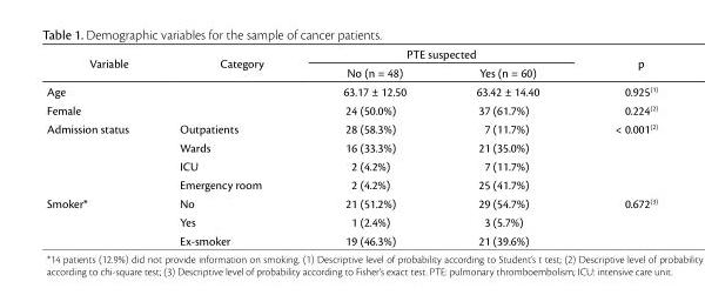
<table><thead><tr><td rowspan="2">Variable</td><td rowspan="2">Category</td><td colspan="2">PTE suspected</td><td rowspan="2">p</td></tr><tr><td>No (n = 48)</td><td>Yes (n = 60)</td></tr></thead><tbody><tr><td>Age</td><td></td><td>63.17 ± 12.50</td><td>63.42 ± 14.40</td><td>0.925(1)</td></tr><tr><td>Female</td><td></td><td>24 (50.0%)</td><td>37 (61.7%)</td><td>0.224(2)</td></tr><tr><td rowspan="4">Admission status</td><td>Outpatients</td><td>28 (58.3%)</td><td>7 (11.7%)</td><td>&lt; 0.001(2)</td></tr><tr><td>Wards</td><td>16 (33.3%)</td><td>21 (35.0%)</td><td></td></tr><tr><td>ICU</td><td>2 (4.2%)</td><td>7 (11.7%)</td><td></td></tr><tr><td>Emergency room</td><td>2 (4.2%)</td><td>25 (41.7%)</td><td></td></tr><tr><td rowspan="3">Smoker*</td><td>No</td><td>21 (51.2%)</td><td>29 (54.7%)</td><td>0.672(3)</td></tr><tr><td>Yes</td><td>1 (2.4%)</td><td>3 (5.7%)</td><td></td></tr><tr><td>Ex-smoker</td><td>19 (46.3%)</td><td>21 (39.6%)</td><td></td></tr></tbody></table>